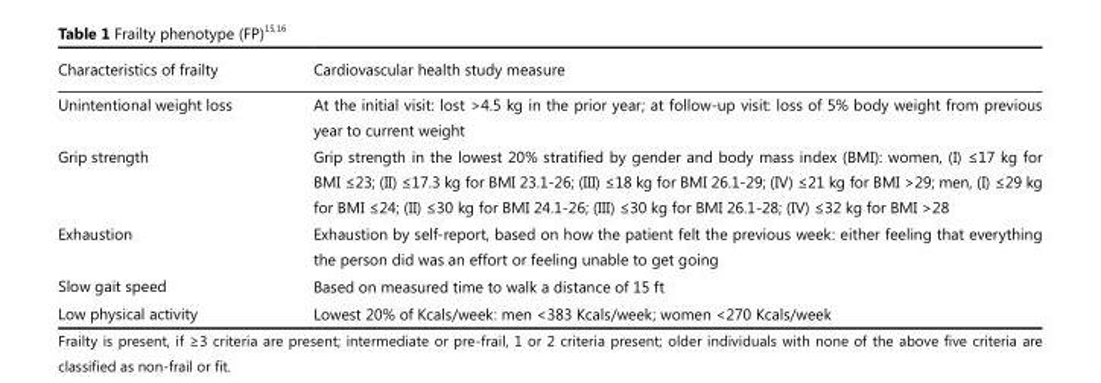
<table><thead><tr><td>Characteristics of frailty</td><td>Cardiovascular health study measure</td></tr></thead><tbody><tr><td>Unintentional weight loss</td><td>At the initial visit: lost &gt;4.5 kg in the prior year; at follow-up visit: loss of 5% body weight from previous year to current weight</td></tr><tr><td>Grip strength</td><td>Grip strength in the lowest 20% stratified by gender and body mass index (BMI): women, (I) ≤17 kg for BMI ≤23; (II) ≤17.3 kg for BMI 23.1-26; (III) ≤18 kg for BMI 26.1-29; (IV) ≤21 kg for BMI &gt;29; men, (I) ≤29 kg for BMI ≤24; (II) ≤30 kg for BMI 24.1-26; (III) ≤30 kg for BMI 26.1-28; (IV) ≤32 kg for BMI &gt;28</td></tr><tr><td>Exhaustion</td><td>Exhaustion by self-report, based on how the patient felt the previous week: either feeling that everything the person did was an effort or feeling unable to get going</td></tr><tr><td>Slow gait speed</td><td>Based on measured time to walk a distance of 15 ft</td></tr><tr><td>Low physical activity</td><td>Lowest 20% of Kcals/week: men &lt;383 Kcals/week; women &lt;270 Kcals/week</td></tr></tbody></table>